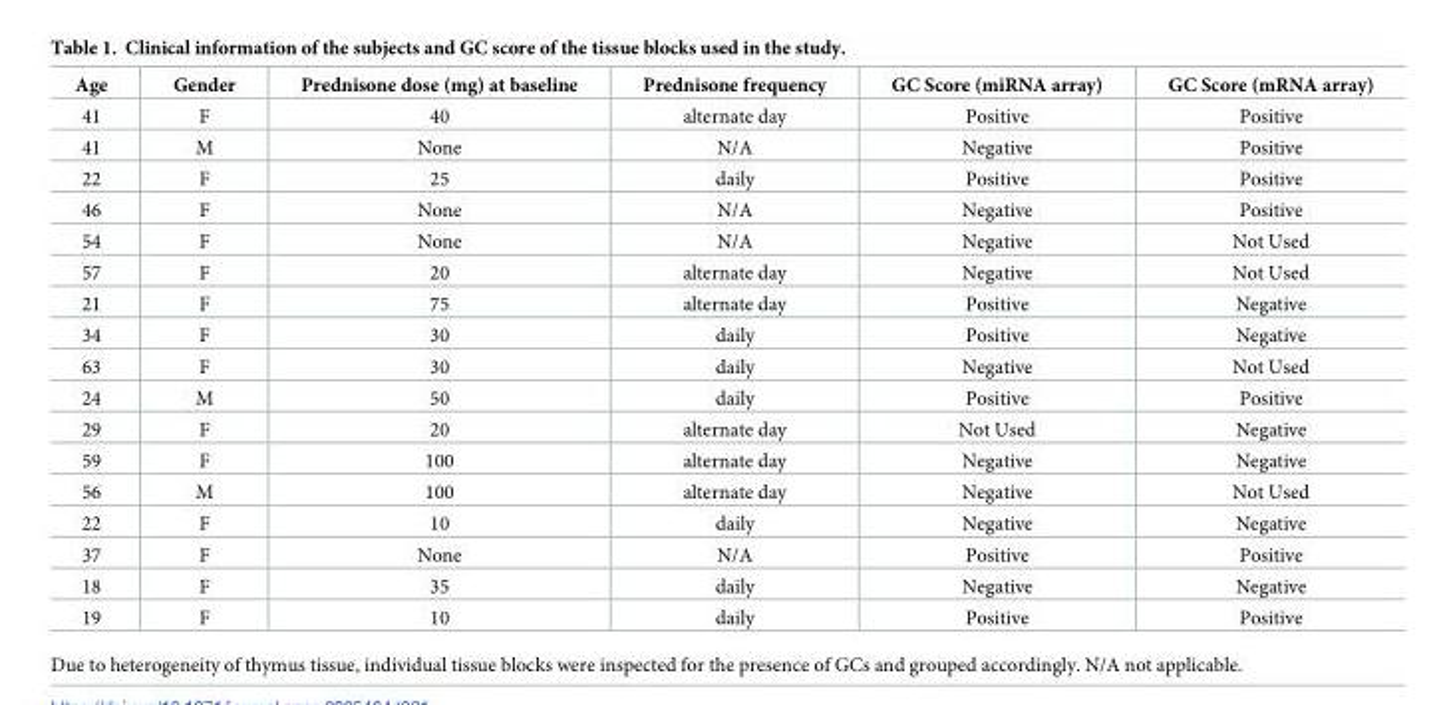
<table><thead><tr><td>Age</td><td>Gender</td><td>Prednisone dose (mg) at baseline</td><td>Prednisone frequency</td><td>GC Score (miRNA array)</td><td>GC Score (mRNA array)</td></tr></thead><tbody><tr><td>41</td><td>F</td><td>40</td><td>alternate day</td><td>Positive</td><td>Positive</td></tr><tr><td>41</td><td>M</td><td>None</td><td>N/A</td><td>Negative</td><td>Positive</td></tr><tr><td>22</td><td>F</td><td>25</td><td>daily</td><td>Positive</td><td>Positive</td></tr><tr><td>46</td><td>F</td><td>None</td><td>N/A</td><td>Negative</td><td>Positive</td></tr><tr><td>54</td><td>F</td><td>None</td><td>N/A</td><td>Negative</td><td>Not Used</td></tr><tr><td>57</td><td>F</td><td>20</td><td>alternate day</td><td>Negative</td><td>Not Used</td></tr><tr><td>21</td><td>F</td><td>75</td><td>alternate day</td><td>Positive</td><td>Negative</td></tr><tr><td>34</td><td>F</td><td>30</td><td>daily</td><td>Positive</td><td>Negative</td></tr><tr><td>63</td><td>F</td><td>30</td><td>daily</td><td>Negative</td><td>Not Used</td></tr><tr><td>24</td><td>M</td><td>50</td><td>daily</td><td>Positive</td><td>Positive</td></tr><tr><td>29</td><td>F</td><td>20</td><td>alternate day</td><td>Not Used</td><td>Negative</td></tr><tr><td>59</td><td>F</td><td>100</td><td>alternate day</td><td>Negative</td><td>Negative</td></tr><tr><td>56</td><td>M</td><td>100</td><td>alternate day</td><td>Negative</td><td>Not Used</td></tr><tr><td>22</td><td>F</td><td>10</td><td>daily</td><td>Negative</td><td>Negative</td></tr><tr><td>37</td><td>F</td><td>None</td><td>N/A</td><td>Positive</td><td>Positive</td></tr><tr><td>18</td><td>F</td><td>35</td><td>daily</td><td>Negative</td><td>Negative</td></tr><tr><td>19</td><td>F</td><td>10</td><td>daily</td><td>Positive</td><td>Positive</td></tr></tbody></table>